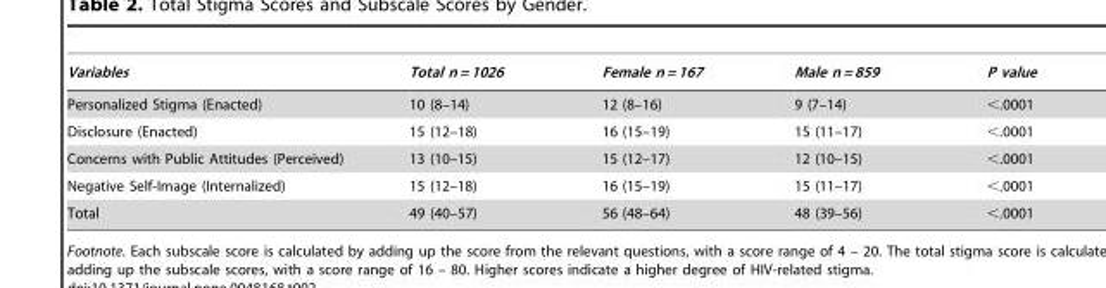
<table><thead><tr><td>Variables</td><td>Total n = 1026</td><td>Female n = 167</td><td>Male n = 859</td><td>P value</td></tr></thead><tbody><tr><td>Personalized Stigma (Enacted)</td><td>10 (8–14)</td><td>12 (8–16)</td><td>9 (7–14)</td><td>&lt;.0001</td></tr><tr><td>Disclosure (Enacted)</td><td>15 (12–18)</td><td>16 (15–19)</td><td>15 (11–17)</td><td>&lt;.0001</td></tr><tr><td>Concerns with Public Attitudes (Perceived)</td><td>13 (10–15)</td><td>15 (12–17)</td><td>12 (10–15)</td><td>&lt;.0001</td></tr><tr><td>Negative Self-Image (Internalized)</td><td>15 (12–18)</td><td>16 (15–19)</td><td>15 (11–17)</td><td>&lt;.0001</td></tr><tr><td>Total</td><td>49 (40–57)</td><td>56 (48–64)</td><td>48 (39–56)</td><td>&lt;.0001</td></tr></tbody></table>